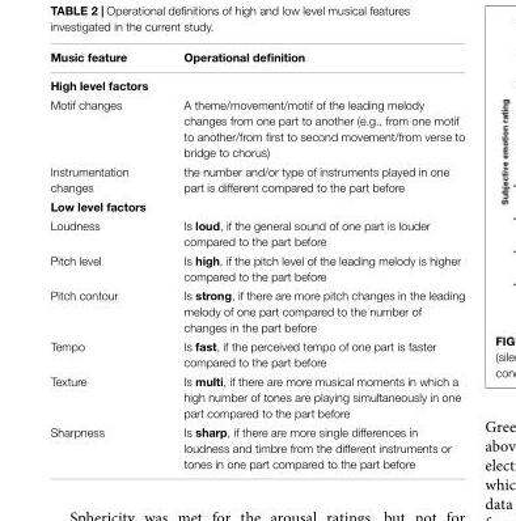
<table><thead><tr><td>Music feature</td><td>Operational definition</td></tr></thead><tbody><tr><td colspan="2">High level factors</td></tr><tr><td>Motif changes</td><td>A theme/movement/motif of the leading melody changes from one part to another (e.g., from one motif to another/from first to second movement/from verse to bridge to chorus)</td></tr><tr><td>Instrumentation changes</td><td>the number and/or type of instruments played in one part is different compared to the part before</td></tr><tr><td colspan="2">Low level factors</td></tr><tr><td>Loudness</td><td>Is loud, if the general sound of one part is louder compared to the part before</td></tr><tr><td>Pitch level</td><td>Is high, if the pitch level of the leading melody is higher compared to the part before</td></tr><tr><td>Pitch contour</td><td>Is strong, if there are more pitch changes in the leading melody of one part compared to the number of changes in the part before</td></tr><tr><td>Tempo</td><td>Is fast, if the perceived tempo of one part is faster compared to the part before</td></tr><tr><td>Texture</td><td>Is multi, if there are more musical moments in which a high number of tones are playing simultaneously in one part compared to the part before</td></tr><tr><td>Sharpness</td><td>Is sharp, if there are more single differences in loudness and timbre from the different instruments or tones in one part compared to the part before</td></tr></tbody></table>